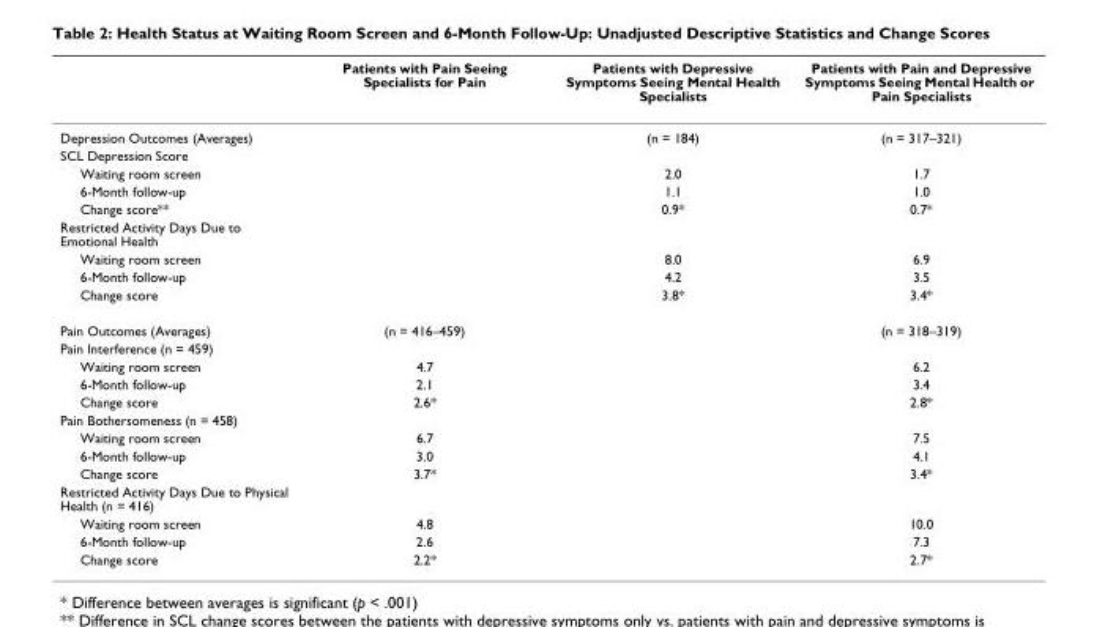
<table><thead><tr><td></td><td>Patients with Pain Seeing Specialists for Pain</td><td>Patients with Depressive Symptoms Seeing Mental Health Specialists</td><td>Patients with Pain and Depressive Symptoms Seeing Mental Health or Pain Specialists</td></tr></thead><tbody><tr><td>Depression Outcomes (Averages)</td><td></td><td>(n = 184)</td><td>(n = 317–321)</td></tr><tr><td colspan="4">SCL Depression Score</td></tr><tr><td>Waiting room screen</td><td></td><td>2.0</td><td>1.7</td></tr><tr><td>6-Month follow-up</td><td></td><td>1.1</td><td>1.0</td></tr><tr><td>Change score**</td><td></td><td>0.9*</td><td>0.7*</td></tr><tr><td colspan="4">Restricted Activity Days Due to Emotional Health</td></tr><tr><td>Waiting room screen</td><td></td><td>8.0</td><td>6.9</td></tr><tr><td>6-Month follow-up</td><td></td><td>4.2</td><td>3.5</td></tr><tr><td>Change score</td><td></td><td>3.8*</td><td>3.4*</td></tr><tr><td>Pain Outcomes (Averages)</td><td>(n = 416–459)</td><td></td><td>(n = 318–319)</td></tr><tr><td colspan="4">Pain Interference (n = 459)</td></tr><tr><td>Waiting room screen</td><td>4.7</td><td></td><td>6.2</td></tr><tr><td>6-Month follow-up</td><td>2.1</td><td></td><td>3.4</td></tr><tr><td>Change score</td><td>2.6*</td><td></td><td>2.8*</td></tr><tr><td colspan="4">Pain Bothersomeness (n = 458)</td></tr><tr><td>Waiting room screen</td><td>6.7</td><td></td><td>7.5</td></tr><tr><td>6-Month follow-up</td><td>3.0</td><td></td><td>4.1</td></tr><tr><td>Change score</td><td>3.7*</td><td></td><td>3.4*</td></tr><tr><td colspan="4">Restricted Activity Days Due to Physical Health (n = 416)</td></tr><tr><td>Waiting room screen</td><td>4.8</td><td></td><td>10.0</td></tr><tr><td>6-Month follow-up</td><td>2.6</td><td></td><td>7.3</td></tr><tr><td>Change score</td><td>2.2*</td><td></td><td>2.7*</td></tr></tbody></table>